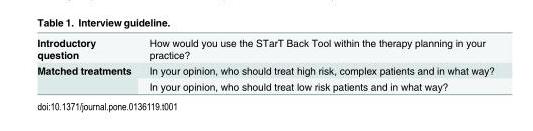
<table><tbody><tr><td>Introductory question</td><td>How would you use the STarT Back Tool within the therapy planning in your practice?</td></tr><tr><td rowspan="2">Matched treatments</td><td>In your opinion, who should treat high risk, complex patients and in what way?</td></tr><tr><td>In your opinion, who should treat low risk patients and in what way?</td></tr></tbody></table>